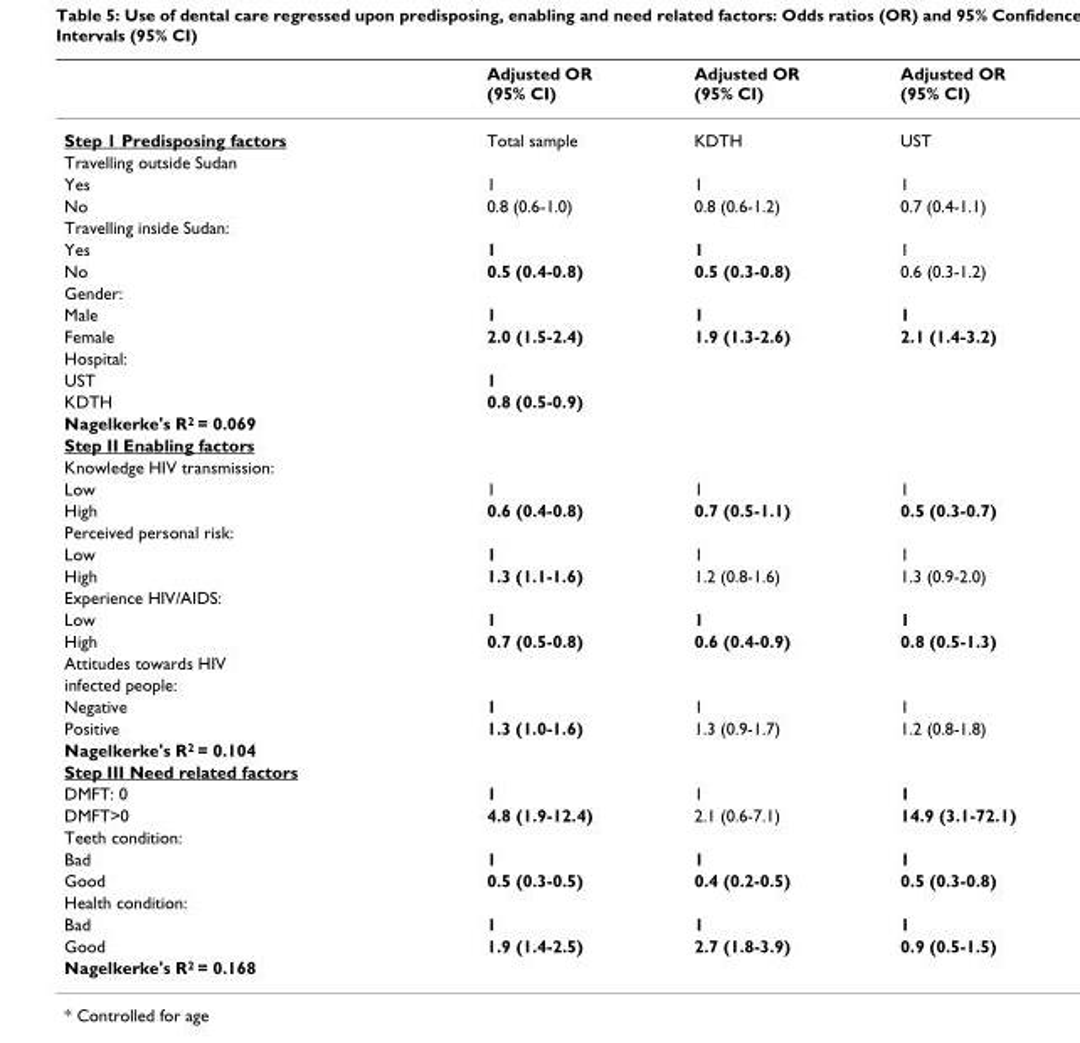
<table><thead><tr><td></td><td>Adjusted OR (95% CI)</td><td>Adjusted OR (95% CI)</td><td>Adjusted OR (95% CI)</td></tr></thead><tbody><tr><td>Step 1 Predisposing factors</td><td>Total sample</td><td>KDTH</td><td>UST</td></tr><tr><td colspan="4">Travelling outside Sudan</td></tr><tr><td>Yes</td><td>1</td><td>1</td><td>1</td></tr><tr><td>No</td><td>0.8 (0.6-1.0)</td><td>0.8 (0.6-1.2)</td><td>0.7 (0.4-1.1)</td></tr><tr><td colspan="4">Travelling inside Sudan:</td></tr><tr><td>Yes</td><td>1</td><td>1</td><td>1</td></tr><tr><td>No</td><td>0.5 (0.4-0.8)</td><td>0.5 (0.3-0.8)</td><td>0.6 (0.3-1.2)</td></tr><tr><td colspan="4">Gender:</td></tr><tr><td>Male</td><td>1</td><td>1</td><td>1</td></tr><tr><td>Female</td><td>2.0 (1.5-2.4)</td><td>1.9 (1.3-2.6)</td><td>2.1 (1.4-3.2)</td></tr><tr><td colspan="4">Hospital:</td></tr><tr><td>UST</td><td>1</td><td></td><td></td></tr><tr><td>KDTH</td><td>0.8 (0.5-0.9)</td><td></td><td></td></tr><tr><td colspan="4">Nagelkerke&#x27;s R<sup>2</sup> = 0.069</td></tr><tr><td colspan="4">Step II Enabling factors</td></tr><tr><td colspan="4">Knowledge HIV transmission:</td></tr><tr><td>Low</td><td>1</td><td>1</td><td>1</td></tr><tr><td>High</td><td>0.6 (0.4-0.8)</td><td>0.7 (0.5-1.1)</td><td>0.5 (0.3-0.7)</td></tr><tr><td colspan="4">Perceived personal risk:</td></tr><tr><td>Low</td><td>1</td><td>1</td><td>1</td></tr><tr><td>High</td><td>1.3 (1.1-1.6)</td><td>1.2 (0.8-1.6)</td><td>1.3 (0.9-2.0)</td></tr><tr><td colspan="4">Experience HIV/AIDS:</td></tr><tr><td>Low</td><td>1</td><td>1</td><td>1</td></tr><tr><td>High</td><td>0.7 (0.5-0.8)</td><td>0.6 (0.4-0.9)</td><td>0.8 (0.5-1.3)</td></tr><tr><td colspan="4">Attitudes towards HIV</td></tr><tr><td colspan="4">infected people:</td></tr><tr><td>Negative</td><td>1</td><td>1</td><td>1</td></tr><tr><td>Positive</td><td>1.3 (1.0-1.6)</td><td>1.3 (0.9-1.7)</td><td>1.2 (0.8-1.8)</td></tr><tr><td colspan="4">Nagelkerke&#x27;s R<sup>2</sup> = 0.104</td></tr><tr><td colspan="4">Step III Need related factors</td></tr><tr><td>DMFT: 0</td><td>1</td><td>1</td><td>1</td></tr><tr><td>DMFT&gt;0</td><td>4.8 (1.9-12.4)</td><td>2.1 (0.6-7.1)</td><td>14.9 (3.1-72.1)</td></tr><tr><td colspan="4">Teeth condition:</td></tr><tr><td>Bad</td><td>1</td><td>1</td><td>1</td></tr><tr><td>Good</td><td>0.5 (0.3-0.5)</td><td>0.4 (0.2-0.5)</td><td>0.5 (0.3-0.8)</td></tr><tr><td colspan="4">Health condition:</td></tr><tr><td>Bad</td><td>1</td><td>1</td><td>1</td></tr><tr><td>Good</td><td>1.9 (1.4-2.5)</td><td>2.7 (1.8-3.9)</td><td>0.9 (0.5-1.5)</td></tr><tr><td>Nagelkerke&#x27;s R<sup>2</sup> = 0.168</td><td></td><td></td><td></td></tr></tbody></table>